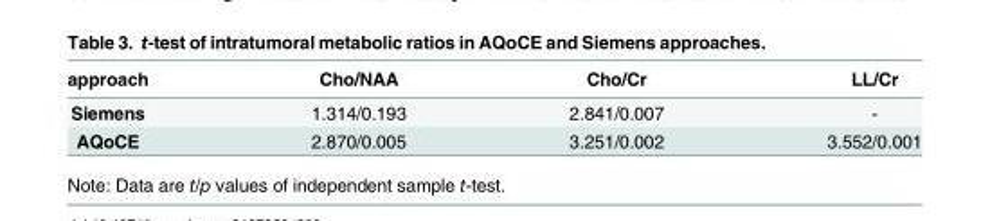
<table><thead><tr><td>approach</td><td>Cho/NAA</td><td>Cho/Cr</td><td>LL/Cr</td></tr></thead><tbody><tr><td>Siemens</td><td>1.314/0.193</td><td>2.841/0.007</td><td>-</td></tr><tr><td>AQoCE</td><td>2.870/0.005</td><td>3.251/0.002</td><td>3.552/0.001</td></tr></tbody></table>